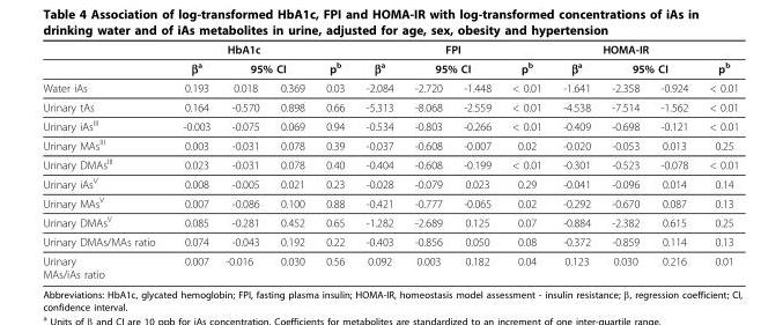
<table><thead><tr><td rowspan="3">Water iAs</td><td colspan="3">HbA1c</td><td rowspan="3">pb 0.03</td><td rowspan="3">βa -2.084</td><td rowspan="2" colspan="2">FPI 95% CI</td><td colspan="5">HOMA-IR</td></tr><tr><td rowspan="2">βa 0.193</td><td colspan="2">95% CI</td><td rowspan="2">pb &lt; 0.01</td><td rowspan="2">βa -1.641</td><td colspan="2">95% CI</td><td rowspan="2">pb &lt; 0.01</td></tr><tr><td>0.018</td><td>0.369</td><td>-2.720</td><td>-1.448</td><td>-2.358</td><td>-0.924</td></tr></thead><tbody><tr><td>Urinary tAs</td><td>0.164</td><td>-0.570</td><td>0.898</td><td>0.66</td><td>-5.313</td><td>-8.068</td><td>-2.559</td><td>&lt; 0.01</td><td>-4.538</td><td>-7.514</td><td>-1.562</td><td>&lt; 0.01</td></tr><tr><td>Urinary iAs<sup>III</sup></td><td>-0.003</td><td>-0.075</td><td>0.069</td><td>0.94</td><td>-0.534</td><td>-0.803</td><td>-0.266</td><td>&lt; 0.01</td><td>-0.409</td><td>-0.698</td><td>-0.121</td><td>&lt; 0.01</td></tr><tr><td>Urinary MAs<sup>III</sup></td><td>0.003</td><td>-0.031</td><td>0.078</td><td>0.39</td><td>-0.037</td><td>-0.608</td><td>-0.007</td><td>0.02</td><td>-0.020</td><td>-0.053</td><td>0.013</td><td>0.25</td></tr><tr><td>Urinary DMAs<sup>III</sup></td><td>0.023</td><td>-0.031</td><td>0.078</td><td>0.40</td><td>-0.404</td><td>-0.608</td><td>-0.199</td><td>&lt; 0.01</td><td>-0.301</td><td>-0.523</td><td>-0.078</td><td>&lt; 0.01</td></tr><tr><td>Urinary iAs<sup>V</sup></td><td>0.008</td><td>-0.005</td><td>0.021</td><td>0.23</td><td>-0.028</td><td>-0.079</td><td>0.023</td><td>0.29</td><td>-0.041</td><td>-0.096</td><td>0.014</td><td>0.14</td></tr><tr><td>Urinary MAs<sup>V</sup></td><td>0.007</td><td>-0.086</td><td>0.100</td><td>0.88</td><td>-0.421</td><td>-0.777</td><td>-0.065</td><td>0.02</td><td>-0.292</td><td>-0.670</td><td>0.087</td><td>0.13</td></tr><tr><td>Urinary DMAs<sup>V</sup></td><td>0.085</td><td>-0.281</td><td>0.452</td><td>0.65</td><td>-1.282</td><td>-2.689</td><td>0.125</td><td>0.07</td><td>-0.884</td><td>-2.382</td><td>0.615</td><td>0.25</td></tr><tr><td>Urinary DMAs/MAs ratio</td><td>0.074</td><td>-0.043</td><td>0.192</td><td>0.22</td><td>-0.403</td><td>-0.856</td><td>0.050</td><td>0.08</td><td>-0.372</td><td>-0.859</td><td>0.114</td><td>0.13</td></tr><tr><td>Urinary MAs/iAs ratio</td><td>0.007</td><td>-0.016</td><td>0.030</td><td>0.56</td><td>0.092</td><td>0.003</td><td>0.182</td><td>0.04</td><td>0.123</td><td>0.030</td><td>0.216</td><td>0.01</td></tr></tbody></table>